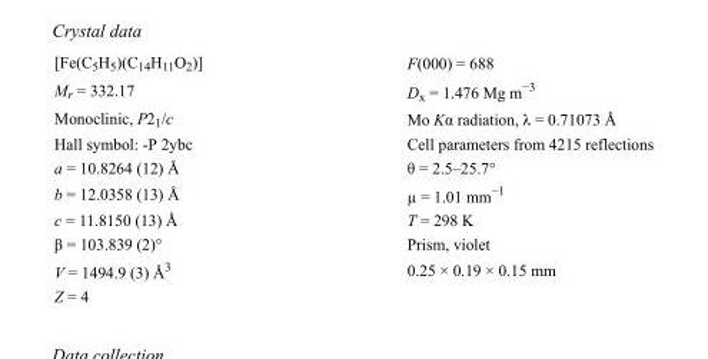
<table><tbody><tr><td>[Fe(C<sub>5</sub>H<sub>5</sub>)(C<sub>14</sub>H<sub>11</sub>O<sub>2</sub>)]</td><td>F(000) = 688</td></tr><tr><td>M<sub>r</sub> = 332.17</td><td>D<sub>x</sub> = 1.476 Mg m<sup>−3</sup></td></tr><tr><td>Monoclinic, P2<sub>1</sub>/c</td><td>Mo Kα radiation, λ = 0.71073 Å</td></tr><tr><td>Hall symbol: -P 2ybc</td><td>Cell parameters from 4215 reflections</td></tr><tr><td>a = 10.8264 (12) Å</td><td>θ = 2.5–25.7°</td></tr><tr><td>b = 12.0358 (13) Å</td><td>µ = 1.01 mm<sup>−1</sup></td></tr><tr><td>c = 11.8150 (13) Å</td><td>T = 298 K</td></tr><tr><td>β = 103.839 (2)°</td><td>Prism, violet</td></tr><tr><td>V = 1494.9 (3) Å<sup>3</sup></td><td>0.25 × 0.19 × 0.15 mm</td></tr><tr><td>Z = 4</td><td></td></tr></tbody></table>